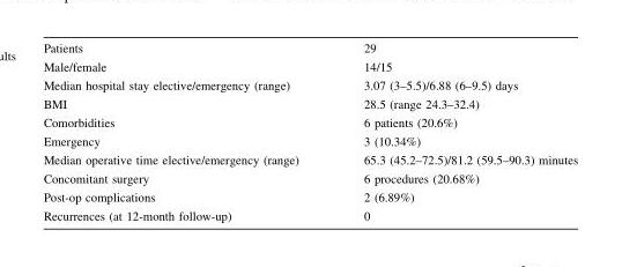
<table><tbody><tr><td>Patients</td><td>29</td></tr><tr><td>Male/female</td><td>14/15</td></tr><tr><td>Median hospital stay elective/emergency (range)</td><td>3.07 (3–5.5)/6.88 (6–9.5) days</td></tr><tr><td>BMI</td><td>28.5 (range 24.3–32.4)</td></tr><tr><td>Comorbidities</td><td>6 patients (20.6%)</td></tr><tr><td>Emergency</td><td>3 (10.34%)</td></tr><tr><td>Median operative time elective/emergency (range)</td><td>65.3 (45.2–72.5)/81.2 (59.5–90.3) minutes</td></tr><tr><td>Concomitant surgery</td><td>6 procedures (20.68%)</td></tr><tr><td>Post-op complications</td><td>2 (6.89%)</td></tr><tr><td>Recurrences (at 12-month follow-up)</td><td>0</td></tr></tbody></table>